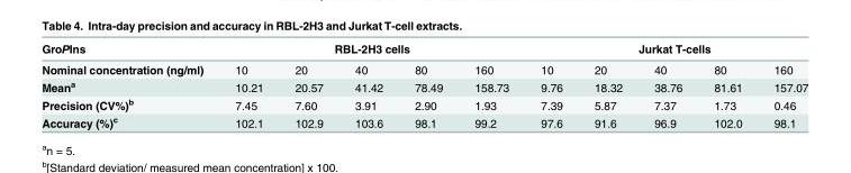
<table><thead><tr><td rowspan="2">GroPIns Nominal concentration (ng/ml)</td><td colspan="5">RBL-2H3 cells</td><td colspan="5">Jurkat T-cells</td></tr><tr><td>10</td><td>20</td><td>40</td><td>80</td><td>160</td><td>10</td><td>20</td><td>40</td><td>80</td><td>160</td></tr></thead><tbody><tr><td>Mean<sup>a</sup></td><td>10.21</td><td>20.57</td><td>41.42</td><td>78.49</td><td>158.73</td><td>9.76</td><td>18.32</td><td>38.76</td><td>81.61</td><td>157.07</td></tr><tr><td>Precision (CV%)<sup>b</sup></td><td>7.45</td><td>7.60</td><td>3.91</td><td>2.90</td><td>1.93</td><td>7.39</td><td>5.87</td><td>7.37</td><td>1.73</td><td>0.46</td></tr><tr><td>Accuracy (%)<sup>c</sup></td><td>102.1</td><td>102.9</td><td>103.6</td><td>98.1</td><td>99.2</td><td>97.6</td><td>91.6</td><td>96.9</td><td>102.0</td><td>98.1</td></tr></tbody></table>